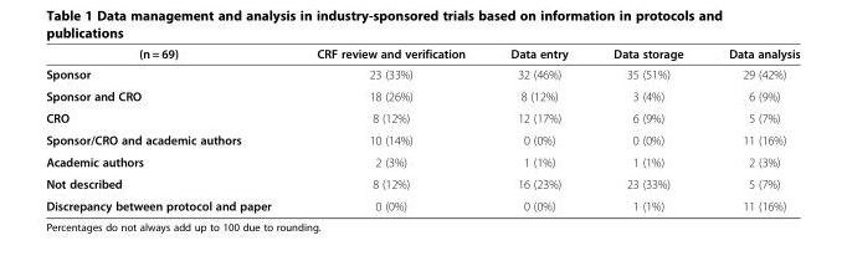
<table><thead><tr><td>(n = 69)</td><td>CRF review and verification</td><td>Data entry</td><td>Data storage</td><td>Data analysis</td></tr></thead><tbody><tr><td>Sponsor</td><td>23 (33%)</td><td>32 (46%)</td><td>35 (51%)</td><td>29 (42%)</td></tr><tr><td>Sponsor and CRO</td><td>18 (26%)</td><td>8 (12%)</td><td>3 (4%)</td><td>6 (9%)</td></tr><tr><td>CRO</td><td>8 (12%)</td><td>12 (17%)</td><td>6 (9%)</td><td>5 (7%)</td></tr><tr><td>Sponsor/CRO and academic authors</td><td>10 (14%)</td><td>0 (0%)</td><td>0 (0%)</td><td>11 (16%)</td></tr><tr><td>Academic authors</td><td>2 (3%)</td><td>1 (1%)</td><td>1 (1%)</td><td>2 (3%)</td></tr><tr><td>Not described</td><td>8 (12%)</td><td>16 (23%)</td><td>23 (33%)</td><td>5 (7%)</td></tr><tr><td>Discrepancy between protocol and paper</td><td>0 (0%)</td><td>0 (0%)</td><td>1 (1%)</td><td>11 (16%)</td></tr></tbody></table>